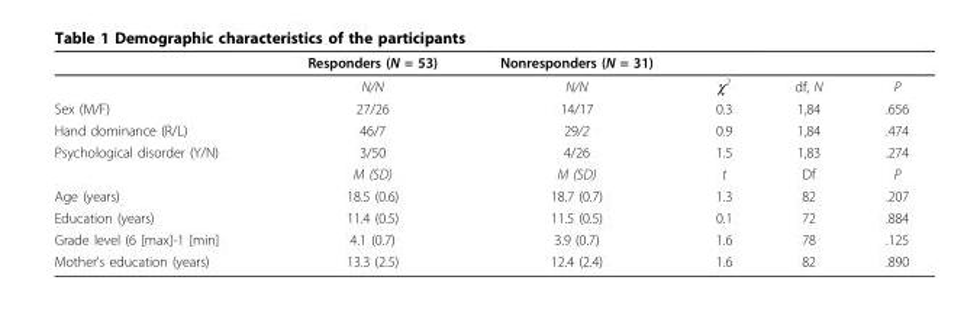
<table><thead><tr><td></td><td>Responders (N = 53)</td><td>Nonresponders (N = 31)</td><td></td><td></td><td></td></tr></thead><tbody><tr><td></td><td>N/N</td><td>N/N</td><td>χ<sup>2</sup></td><td>df, N</td><td>P</td></tr><tr><td>Sex (M/F)</td><td>27/26</td><td>14/17</td><td>0.3</td><td>1,84</td><td>.656</td></tr><tr><td>Hand dominance (R/L)</td><td>46/7</td><td>29/2</td><td>0.9</td><td>1,84</td><td>.474</td></tr><tr><td rowspan="2">Psychological disorder (Y/N)</td><td>3/50</td><td>4/26</td><td>1.5</td><td>1,83</td><td>.274</td></tr><tr><td>M (SD)</td><td>M (SD)</td><td>t</td><td>Df</td><td>P</td></tr><tr><td>Age (years)</td><td>18.5 (0.6)</td><td>18.7 (0.7)</td><td>1.3</td><td>82</td><td>.207</td></tr><tr><td>Education (years)</td><td>11.4 (0.5)</td><td>11.5 (0.5)</td><td>0.1</td><td>72</td><td>.884</td></tr><tr><td>Grade level (6 [max]-1 [min]</td><td>4.1 (0.7)</td><td>3.9 (0.7)</td><td>1.6</td><td>78</td><td>.125</td></tr><tr><td>Mother’s education (years)</td><td>13.3 (2.5)</td><td>12.4 (2.4)</td><td>1.6</td><td>82</td><td>.890</td></tr></tbody></table>